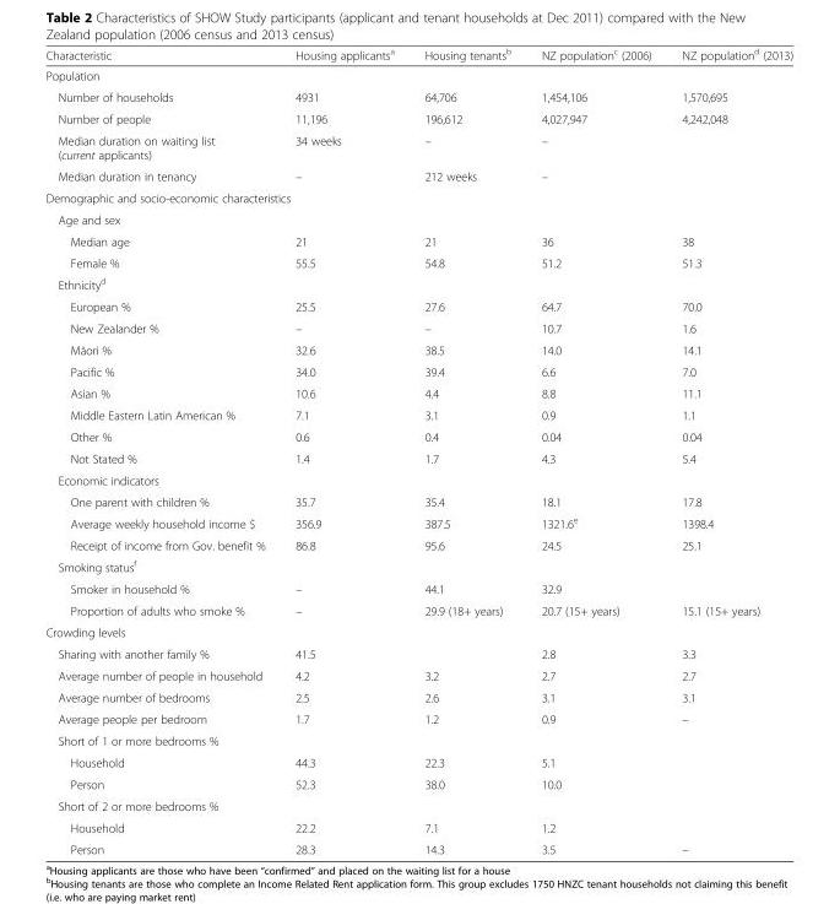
<table><thead><tr><td>Characteristic</td><td>Housing applicants<sup>a</sup></td><td>Housing tenants<sup>b</sup></td><td>NZ population<sup>c</sup> (2006)</td><td>NZ population<sup>d</sup> (2013)</td></tr></thead><tbody><tr><td colspan="5">Population</td></tr><tr><td>Number of households</td><td>4931</td><td>64,706</td><td>1,454,106</td><td>1,570,695</td></tr><tr><td>Number of people</td><td>11,196</td><td>196,612</td><td>4,027,947</td><td>4,242,048</td></tr><tr><td>Median duration on waiting list (current applicants)</td><td>34 weeks</td><td>–</td><td>–</td><td></td></tr><tr><td>Median duration in tenancy</td><td>–</td><td>212 weeks</td><td>–</td><td></td></tr><tr><td colspan="5">Demographic and socio-economic characteristics</td></tr><tr><td colspan="5">Age and sex</td></tr><tr><td>Median age</td><td>21</td><td>21</td><td>36</td><td>38</td></tr><tr><td>Female %</td><td>55.5</td><td>54.8</td><td>51.2</td><td>51.3</td></tr><tr><td colspan="5">Ethnicity<sup>d</sup></td></tr><tr><td>European %</td><td>25.5</td><td>27.6</td><td>64.7</td><td>70.0</td></tr><tr><td>New Zealander %</td><td>–</td><td>–</td><td>10.7</td><td>1.6</td></tr><tr><td>Māori %</td><td>32.6</td><td>38.5</td><td>14.0</td><td>14.1</td></tr><tr><td>Pacific %</td><td>34.0</td><td>39.4</td><td>6.6</td><td>7.0</td></tr><tr><td>Asian %</td><td>10.6</td><td>4.4</td><td>8.8</td><td>11.1</td></tr><tr><td>Middle Eastern Latin American %</td><td>7.1</td><td>3.1</td><td>0.9</td><td>1.1</td></tr><tr><td>Other %</td><td>0.6</td><td>0.4</td><td>0.04</td><td>0.04</td></tr><tr><td>Not Stated %</td><td>1.4</td><td>1.7</td><td>4.3</td><td>5.4</td></tr><tr><td colspan="5">Economic indicators</td></tr><tr><td>One parent with children %</td><td>35.7</td><td>35.4</td><td>18.1</td><td>17.8</td></tr><tr><td>Average weekly household income $</td><td>356.9</td><td>387.5</td><td>1321.6<sup>e</sup></td><td>1398.4</td></tr><tr><td>Receipt of income from Gov. benefit %</td><td>86.8</td><td>95.6</td><td>24.5</td><td>25.1</td></tr><tr><td colspan="5">Smoking status<sup>f</sup></td></tr><tr><td>Smoker in household %</td><td>–</td><td>44.1</td><td>32.9</td><td></td></tr><tr><td>Proportion of adults who smoke %</td><td>–</td><td>29.9 (18+ years)</td><td>20.7 (15+ years)</td><td>15.1 (15+ years)</td></tr><tr><td colspan="5">Crowding levels</td></tr><tr><td>Sharing with another family %</td><td>41.5</td><td></td><td>2.8</td><td>3.3</td></tr><tr><td>Average number of people in household</td><td>4.2</td><td>3.2</td><td>2.7</td><td>2.7</td></tr><tr><td>Average number of bedrooms</td><td>2.5</td><td>2.6</td><td>3.1</td><td>3.1</td></tr><tr><td>Average people per bedroom</td><td>1.7</td><td>1.2</td><td>0.9</td><td>–</td></tr><tr><td colspan="5">Short of 1 or more bedrooms %</td></tr><tr><td>Household</td><td>44.3</td><td>22.3</td><td>5.1</td><td></td></tr><tr><td>Person</td><td>52.3</td><td>38.0</td><td>10.0</td><td></td></tr><tr><td colspan="5">Short of 2 or more bedrooms %</td></tr><tr><td>Household</td><td>22.2</td><td>7.1</td><td>1.2</td><td></td></tr><tr><td>Person</td><td>28.3</td><td>14.3</td><td>3.5</td><td>–</td></tr></tbody></table>